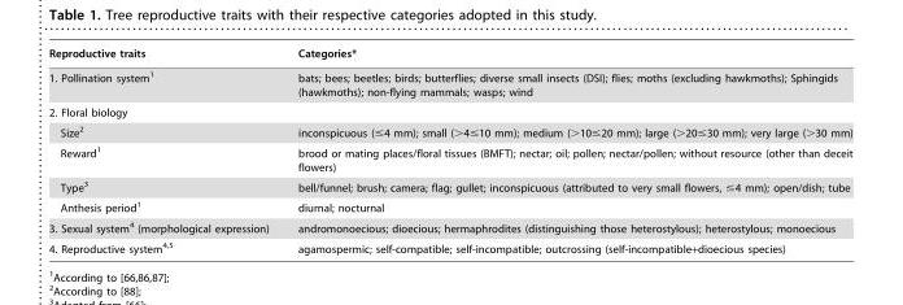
<table><thead><tr><td>Reproductive traits</td><td>Categories*</td></tr></thead><tbody><tr><td>1. Pollination system<sup>1</sup></td><td>bats; bees; beetles; birds; butterflies; diverse small insects (DSI); flies; moths (excluding hawkmoths); Sphingids (hawkmoths); non-flying mammals; wasps; wind</td></tr><tr><td colspan="2">2. Floral biology</td></tr><tr><td>Size<sup>2</sup></td><td>inconspicuous (≤4 mm); small (&gt;4≤10 mm); medium (&gt;10≤20 mm); large (&gt;20≤30 mm); very large (&gt;30 mm)</td></tr><tr><td>Reward<sup>1</sup></td><td>brood or mating places/floral tissues (BMFT); nectar; oil; pollen; nectar/pollen; without resource (other than deceit flowers)</td></tr><tr><td>Type<sup>3</sup></td><td>bell/funnel; brush; camera; flag; gullet; inconspicuous (attributed to very small flowers, ≤4 mm); open/dish; tube</td></tr><tr><td>Anthesis period<sup>1</sup></td><td>diurnal; nocturnal</td></tr><tr><td>3. Sexual system<sup>4</sup> (morphological expression)</td><td>andromonoecious; dioecious; hermaphrodites (distinguishing those heterostylous); heterostylous; monoecious</td></tr><tr><td>4. Reproductive system<sup>4</sup>,<sup>5</sup></td><td>agamospermic; self-compatible; self-incompatible; outcrossing (self-incompatible+dioecious species)</td></tr></tbody></table>